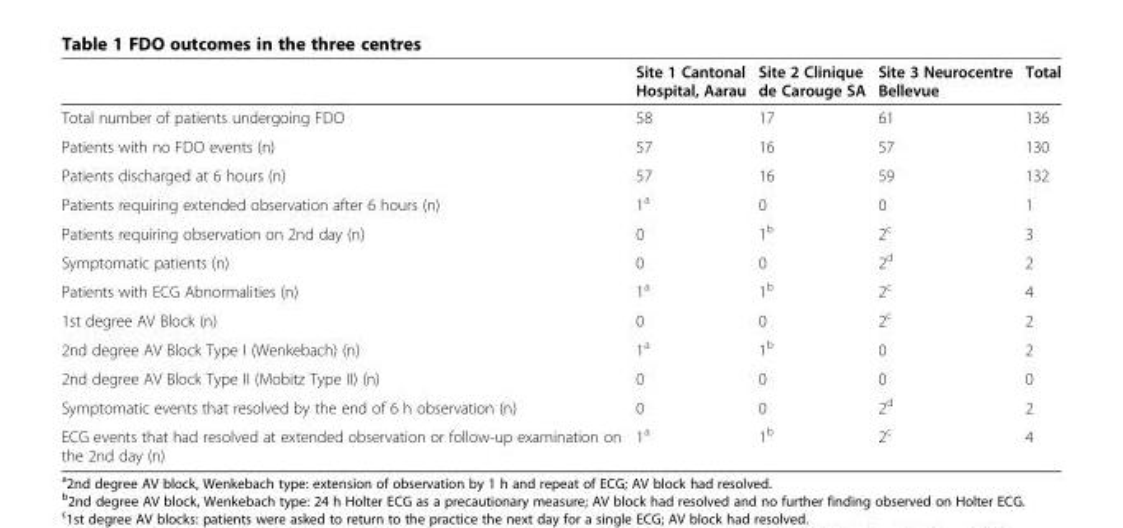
<table><thead><tr><td></td><td>Site 1 Cantonal Hospital, Aarau</td><td>Site 2 Clinique de Carouge SA</td><td>Site 3 Neurocentre Bellevue</td><td>Total</td></tr></thead><tbody><tr><td>Total number of patients undergoing FDO</td><td>58</td><td>17</td><td>61</td><td>136</td></tr><tr><td>Patients with no FDO events (n)</td><td>57</td><td>16</td><td>57</td><td>130</td></tr><tr><td>Patients discharged at 6 hours (n)</td><td>57</td><td>16</td><td>59</td><td>132</td></tr><tr><td>Patients requiring extended observation after 6 hours (n)</td><td>1<sup>a</sup></td><td>0</td><td>0</td><td>1</td></tr><tr><td>Patients requiring observation on 2nd day (n)</td><td>0</td><td>1<sup>b</sup></td><td>2<sup>c</sup></td><td>3</td></tr><tr><td>Symptomatic patients (n)</td><td>0</td><td>0</td><td>2<sup>d</sup></td><td>2</td></tr><tr><td>Patients with ECG Abnormalities (n)</td><td>1<sup>a</sup></td><td>1<sup>b</sup></td><td>2<sup>c</sup></td><td>4</td></tr><tr><td>1st degree AV Block (n)</td><td>0</td><td>0</td><td>2<sup>c</sup></td><td>2</td></tr><tr><td>2nd degree AV Block Type I (Wenkebach) (n)</td><td>1<sup>a</sup></td><td>1<sup>b</sup></td><td>0</td><td>2</td></tr><tr><td>2nd degree AV Block Type II (Mobitz Type II) (n)</td><td>0</td><td>0</td><td>0</td><td>0</td></tr><tr><td>Symptomatic events that resolved by the end of 6 h observation (n)</td><td>0</td><td>0</td><td>2<sup>d</sup></td><td>2</td></tr><tr><td>ECG events that had resolved at extended observation or follow-up examination on the 2nd day (n)</td><td>1<sup>a</sup></td><td>1<sup>b</sup></td><td>2<sup>c</sup></td><td>4</td></tr></tbody></table>